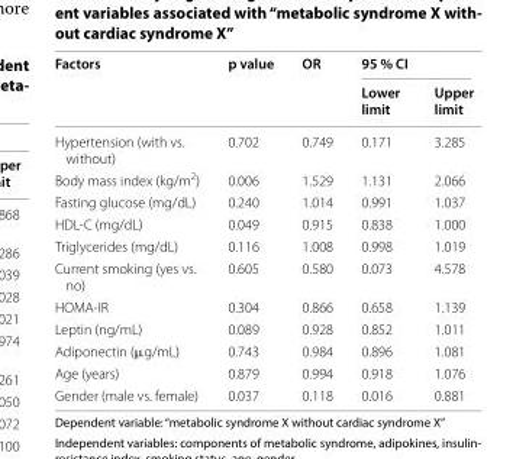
<table><thead><tr><td rowspan="2">Factors</td><td rowspan="2">p value</td><td rowspan="2">OR</td><td colspan="2">95 % CI</td></tr><tr><td>Lower limit</td><td>Upper limit</td></tr></thead><tbody><tr><td>Hypertension (with vs. without)</td><td>0.702</td><td>0.749</td><td>0.171</td><td>3.285</td></tr><tr><td>Body mass index (kg/m<sup>2</sup>)</td><td>0.006</td><td>1.529</td><td>1.131</td><td>2.066</td></tr><tr><td>Fasting glucose (mg/dL)</td><td>0.240</td><td>1.014</td><td>0.991</td><td>1.037</td></tr><tr><td>HDL‑C (mg/dL)</td><td>0.049</td><td>0.915</td><td>0.838</td><td>1.000</td></tr><tr><td>Triglycerides (mg/dL)</td><td>0.116</td><td>1.008</td><td>0.998</td><td>1.019</td></tr><tr><td>Current smoking (yes vs. no)</td><td>0.605</td><td>0.580</td><td>0.073</td><td>4.578</td></tr><tr><td>HOMA‑IR</td><td>0.304</td><td>0.866</td><td>0.658</td><td>1.139</td></tr><tr><td>Leptin (ng/mL)</td><td>0.089</td><td>0.928</td><td>0.852</td><td>1.011</td></tr><tr><td>Adiponectin (μg/mL)</td><td>0.743</td><td>0.984</td><td>0.896</td><td>1.081</td></tr><tr><td>Age (years)</td><td>0.879</td><td>0.994</td><td>0.918</td><td>1.076</td></tr><tr><td>Gender (male vs. female)</td><td>0.037</td><td>0.118</td><td>0.016</td><td>0.881</td></tr></tbody></table>